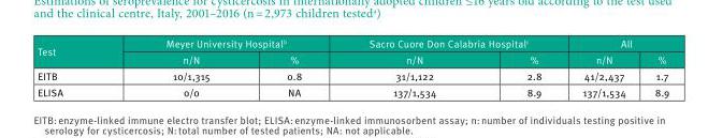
<table><thead><tr><td rowspan="2">Test</td><td colspan="2">Meyer University Hospital<sup>b</sup></td><td colspan="2">Sacro Cuore Don Calabria Hospital<sup>c</sup></td><td colspan="2">All</td></tr><tr><td>n/N</td><td>%</td><td>n/N</td><td>%</td><td>n/N</td><td>%</td></tr></thead><tbody><tr><td>EITB</td><td>10/1,315</td><td>0.8</td><td>31/1,122</td><td>2.8</td><td>41/2,437</td><td>1.7</td></tr><tr><td>ELISA</td><td>0/0</td><td>NA</td><td>137/1,534</td><td>8.9</td><td>137/1,534</td><td>8.9</td></tr></tbody></table>